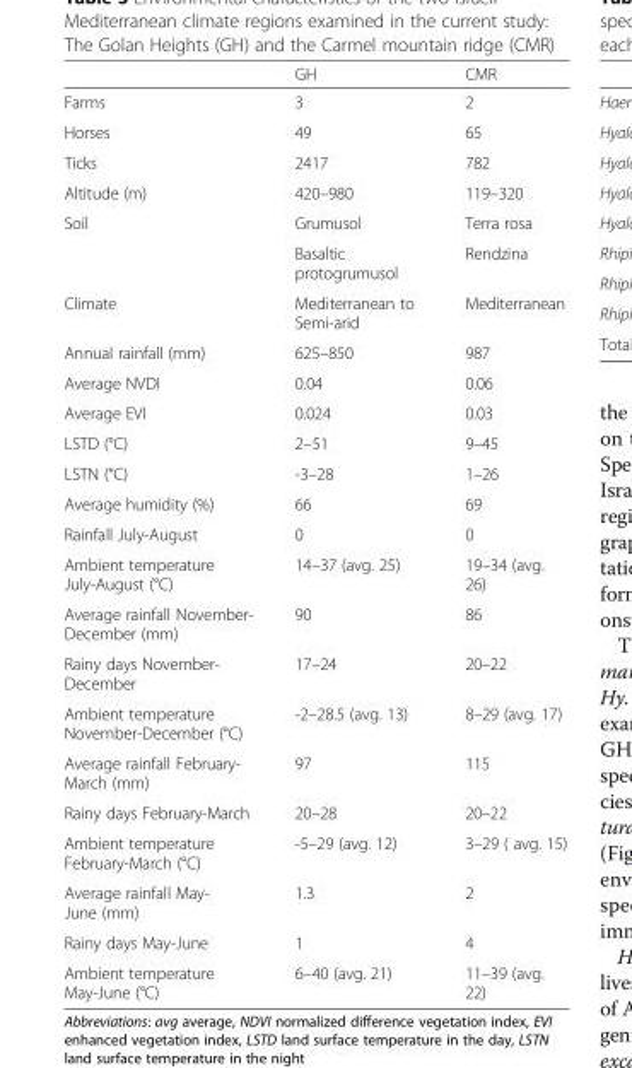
<table><thead><tr><td></td><td>GH</td><td>CMR</td></tr></thead><tbody><tr><td>Farms</td><td>3</td><td>2</td></tr><tr><td>Horses</td><td>49</td><td>65</td></tr><tr><td>Ticks</td><td>2417</td><td>782</td></tr><tr><td>Altitude (m)</td><td>420–980</td><td>119–320</td></tr><tr><td rowspan="2">Soil</td><td>Grumusol</td><td>Terra rosa</td></tr><tr><td>Basaltic protogrumusol</td><td>Rendzina</td></tr><tr><td>Climate</td><td>Mediterranean to Semi-arid</td><td>Mediterranean</td></tr><tr><td>Annual rainfall (mm)</td><td>625–850</td><td>987</td></tr><tr><td>Average NVDI</td><td>0.04</td><td>0.06</td></tr><tr><td>Average EVI</td><td>0.024</td><td>0.03</td></tr><tr><td>LSTD (°C)</td><td>2–51</td><td>9–45</td></tr><tr><td>LSTN (°C)</td><td>-3–28</td><td>1–26</td></tr><tr><td>Average humidity (%)</td><td>66</td><td>69</td></tr><tr><td>Rainfall July-August</td><td>0</td><td>0</td></tr><tr><td>Ambient temperature July-August (°C)</td><td>14–37 (avg. 25)</td><td>19–34 (avg. 26)</td></tr><tr><td>Average rainfall November- December (mm)</td><td>90</td><td>86</td></tr><tr><td>Rainy days November- December</td><td>17–24</td><td>20–22</td></tr><tr><td>Ambient temperature November-December (°C)</td><td>-2–28.5 (avg. 13)</td><td>8–29 (avg. 17)</td></tr><tr><td>Average rainfall February- March (mm)</td><td>97</td><td>115</td></tr><tr><td>Rainy days February-March</td><td>20–28</td><td>20–22</td></tr><tr><td>Ambient temperature February-March (°C)</td><td>-5–29 (avg. 12)</td><td>3–29 ( avg. 15)</td></tr><tr><td>Average rainfall May- June (mm)</td><td>1.3</td><td>2</td></tr><tr><td>Rainy days May-June</td><td>1</td><td>4</td></tr><tr><td>Ambient temperature May-June (°C)</td><td>6–40 (avg. 21)</td><td>11–39 (avg. 22)</td></tr></tbody></table>